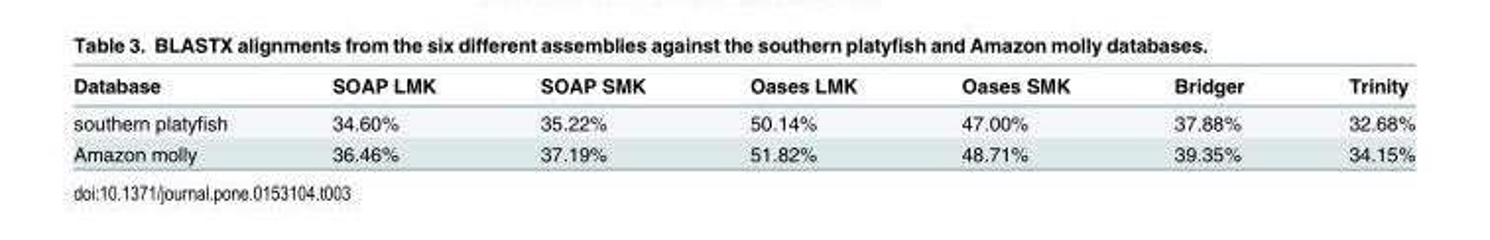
<table><thead><tr><td>Database</td><td>SOAP LMK</td><td>SOAP SMK</td><td>Oases LMK</td><td>Oases SMK</td><td>Bridger</td><td>Trinity</td></tr></thead><tbody><tr><td>southern platyfish</td><td>34.60%</td><td>35.22%</td><td>50.14%</td><td>47.00%</td><td>37.88%</td><td>32.68%</td></tr><tr><td>Amazon molly</td><td>36.46%</td><td>37.19%</td><td>51.82%</td><td>48.71%</td><td>39.35%</td><td>34.15%</td></tr></tbody></table>